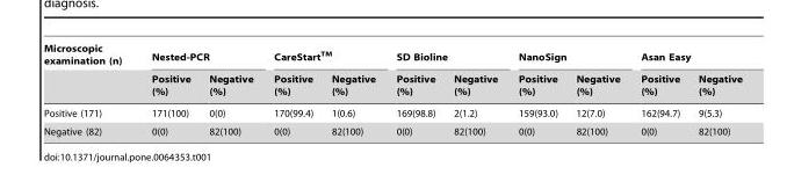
<table><thead><tr><td rowspan="2">Microscopic examination (n)</td><td colspan="2">Nested-PCR</td><td colspan="2">CareStart<sup>TM</sup></td><td colspan="2">SD Bioline</td><td colspan="2">NanoSign</td><td colspan="2">Asan Easy</td></tr><tr><td>Positive (%)</td><td>Negative (%)</td><td>Positive (%)</td><td>Negative (%)</td><td>Positive (%)</td><td>Negative (%)</td><td>Positive (%)</td><td>Negative (%)</td><td>Positive (%)</td><td>Negative (%)</td></tr></thead><tbody><tr><td>Positive (171)</td><td>171(100)</td><td>0(0)</td><td>170(99.4)</td><td>1(0.6)</td><td>169(98.8)</td><td>2(1.2)</td><td>159(93.0)</td><td>12(7.0)</td><td>162(94.7)</td><td>9(5.3)</td></tr><tr><td>Negative (82)</td><td>0(0)</td><td>82(100)</td><td>0(0)</td><td>82(100)</td><td>0(0)</td><td>82(100)</td><td>0(0)</td><td>82(100)</td><td>0(0)</td><td>82(100)</td></tr></tbody></table>